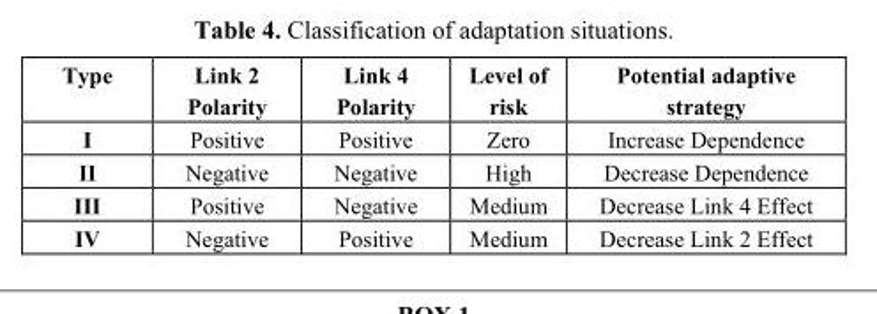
<table><thead><tr><td>Type</td><td>Link 2 Polarity</td><td>Link 4 Polarity</td><td>Level of risk</td><td>Potential adaptive strategy</td></tr></thead><tbody><tr><td>I</td><td>Positive</td><td>Positive</td><td>Zero</td><td>Increase Dependence</td></tr><tr><td>II</td><td>Negative</td><td>Negative</td><td>High</td><td>Decrease Dependence</td></tr><tr><td>III</td><td>Positive</td><td>Negative</td><td>Medium</td><td>Decrease Link 4 Effect</td></tr><tr><td>IV</td><td>Negative</td><td>Positive</td><td>Medium</td><td>Decrease Link 2 Effect</td></tr></tbody></table>